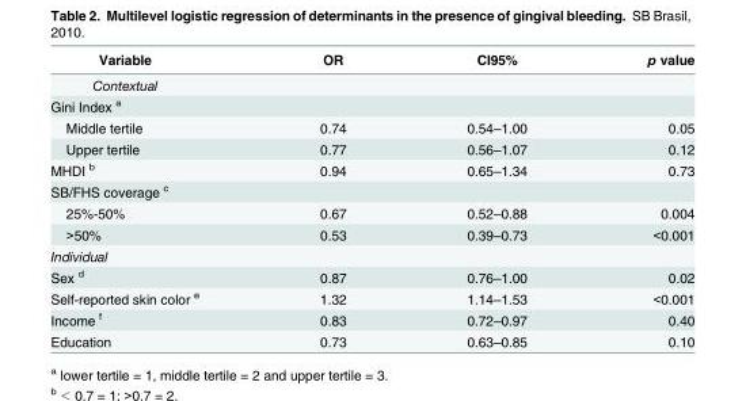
<table><thead><tr><td>Variable</td><td>OR</td><td>CI95%</td><td>p value</td></tr></thead><tbody><tr><td colspan="4">Contextual</td></tr><tr><td colspan="4">Gini Index <sup>a</sup></td></tr><tr><td>Middle tertile</td><td>0.74</td><td>0.54–1.00</td><td>0.05</td></tr><tr><td>Upper tertile</td><td>0.77</td><td>0.56–1.07</td><td>0.12</td></tr><tr><td>MHDI <sup>b</sup></td><td>0.94</td><td>0.65–1.34</td><td>0.73</td></tr><tr><td colspan="4">SB/FHS coverage <sup>c</sup></td></tr><tr><td>25%-50%</td><td>0.67</td><td>0.52–0.88</td><td>0.004</td></tr><tr><td>&gt;50%</td><td>0.53</td><td>0.39–0.73</td><td>&lt;0.001</td></tr><tr><td colspan="4">Individual</td></tr><tr><td>Sex <sup>d</sup></td><td>0.87</td><td>0.76–1.00</td><td>0.02</td></tr><tr><td>Self-reported skin color <sup>e</sup></td><td>1.32</td><td>1.14–1.53</td><td>&lt;0.001</td></tr><tr><td>Income <sup>f</sup></td><td>0.83</td><td>0.72–0.97</td><td>0.40</td></tr><tr><td>Education</td><td>0.73</td><td>0.63–0.85</td><td>0.10</td></tr></tbody></table>